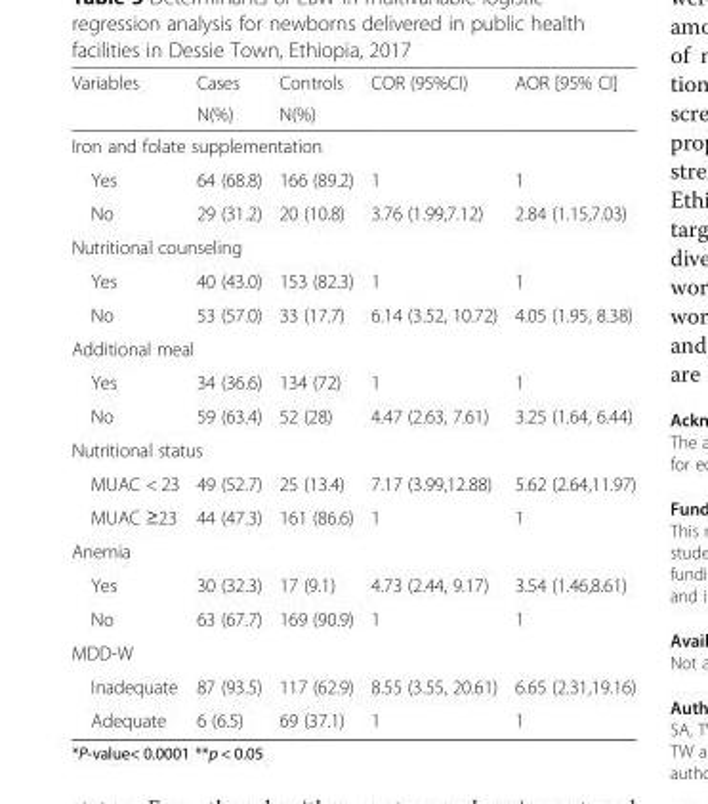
<table><thead><tr><td rowspan="2">Variables</td><td rowspan="2">Cases N(%)</td><td rowspan="2">Controls N(%)</td><td rowspan="2">COR (95%CI)</td><td rowspan="2">AOR [95% CI]</td></tr><tr></tr></thead><tbody><tr><td colspan="5">Iron and folate supplementation</td></tr><tr><td>Yes</td><td>64 (68.8)</td><td>166 (89.2)</td><td>1</td><td>1</td></tr><tr><td>No</td><td>29 (31.2)</td><td>20 (10.8)</td><td>3.76 (1.99,7.12)</td><td>2.84 (1.15,7.03)</td></tr><tr><td colspan="5">Nutritional counseling</td></tr><tr><td>Yes</td><td>40 (43.0)</td><td>153 (82.3)</td><td>1</td><td>1</td></tr><tr><td>No</td><td>53 (57.0)</td><td>33 (17.7)</td><td>6.14 (3.52, 10.72)</td><td>4.05 (1.95, 8.38)</td></tr><tr><td colspan="5">Additional meal</td></tr><tr><td>Yes</td><td>34 (36.6)</td><td>134 (72)</td><td>1</td><td>1</td></tr><tr><td>No</td><td>59 (63.4)</td><td>52 (28)</td><td>4.47 (2.63, 7.61)</td><td>3.25 (1.64, 6.44)</td></tr><tr><td colspan="5">Nutritional status</td></tr><tr><td>MUAC &lt; 23</td><td>49 (52.7)</td><td>25 (13.4)</td><td>7.17 (3.99,12.88)</td><td>5.62 (2.64,11.97)</td></tr><tr><td>MUAC ≥23</td><td>44 (47.3)</td><td>161 (86.6)</td><td>1</td><td>1</td></tr><tr><td colspan="5">Anemia</td></tr><tr><td>Yes</td><td>30 (32.3)</td><td>17 (9.1)</td><td>4.73 (2.44, 9.17)</td><td>3.54 (1.46,8.61)</td></tr><tr><td>No</td><td>63 (67.7)</td><td>169 (90.9)</td><td>1</td><td>1</td></tr><tr><td colspan="5">MDD-W</td></tr><tr><td>Inadequate</td><td>87 (93.5)</td><td>117 (62.9)</td><td>8.55 (3.55, 20.61)</td><td>6.65 (2.31,19.16)</td></tr><tr><td>Adequate</td><td>6 (6.5)</td><td>69 (37.1)</td><td>1</td><td>1</td></tr></tbody></table>